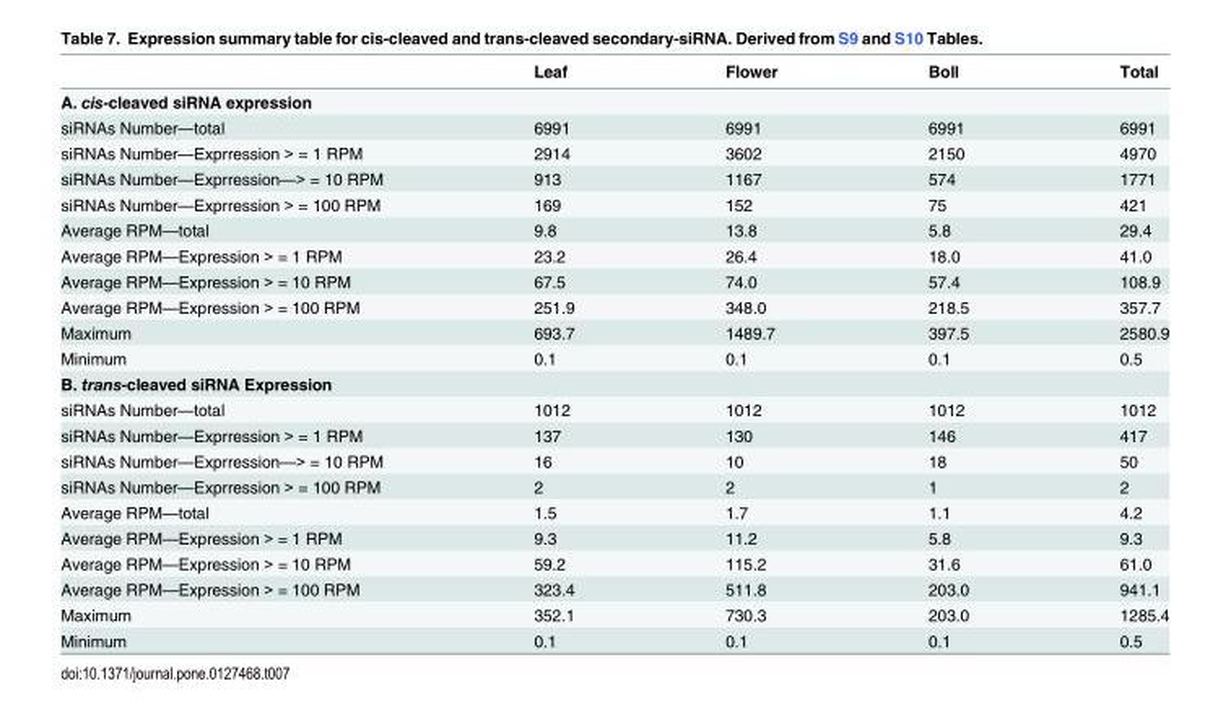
<table><thead><tr><td></td><td>Leaf</td><td>Flower</td><td>Boll</td><td>Total</td></tr></thead><tbody><tr><td colspan="5">A. cis-cleaved siRNA expression</td></tr><tr><td>siRNAs Number—total</td><td>6991</td><td>6991</td><td>6991</td><td>6991</td></tr><tr><td>siRNAs Number—Exprression &gt; = 1 RPM</td><td>2914</td><td>3602</td><td>2150</td><td>4970</td></tr><tr><td>siRNAs Number—Exprression—&gt; = 10 RPM</td><td>913</td><td>1167</td><td>574</td><td>1771</td></tr><tr><td>siRNAs Number—Exprression &gt; = 100 RPM</td><td>169</td><td>152</td><td>75</td><td>421</td></tr><tr><td>Average RPM—total</td><td>9.8</td><td>13.8</td><td>5.8</td><td>29.4</td></tr><tr><td>Average RPM—Expression &gt; = 1 RPM</td><td>23.2</td><td>26.4</td><td>18.0</td><td>41.0</td></tr><tr><td>Average RPM—Expression &gt; = 10 RPM</td><td>67.5</td><td>74.0</td><td>57.4</td><td>108.9</td></tr><tr><td>Average RPM—Expression &gt; = 100 RPM</td><td>251.9</td><td>348.0</td><td>218.5</td><td>357.7</td></tr><tr><td>Maximum</td><td>693.7</td><td>1489.7</td><td>397.5</td><td>2580.9</td></tr><tr><td>Minimum</td><td>0.1</td><td>0.1</td><td>0.1</td><td>0.5</td></tr><tr><td colspan="5">B. trans-cleaved siRNA Expression</td></tr><tr><td>siRNAs Number—total</td><td>1012</td><td>1012</td><td>1012</td><td>1012</td></tr><tr><td>siRNAs Number—Exprression &gt; = 1 RPM</td><td>137</td><td>130</td><td>146</td><td>417</td></tr><tr><td>siRNAs Number—Exprression—&gt; = 10 RPM</td><td>16</td><td>10</td><td>18</td><td>50</td></tr><tr><td>siRNAs Number—Exprression &gt; = 100 RPM</td><td>2</td><td>2</td><td>1</td><td>2</td></tr><tr><td>Average RPM—total</td><td>1.5</td><td>1.7</td><td>1.1</td><td>4.2</td></tr><tr><td>Average RPM—Expression &gt; = 1 RPM</td><td>9.3</td><td>11.2</td><td>5.8</td><td>9.3</td></tr><tr><td>Average RPM—Expression &gt; = 10 RPM</td><td>59.2</td><td>115.2</td><td>31.6</td><td>61.0</td></tr><tr><td>Average RPM—Expression &gt; = 100 RPM</td><td>323.4</td><td>511.8</td><td>203.0</td><td>941.1</td></tr><tr><td>Maximum</td><td>352.1</td><td>730.3</td><td>203.0</td><td>1285.4</td></tr><tr><td>Minimum</td><td>0.1</td><td>0.1</td><td>0.1</td><td>0.5</td></tr></tbody></table>